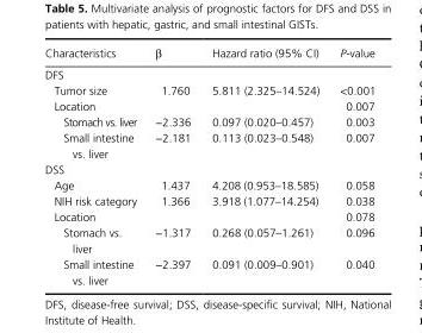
<table><thead><tr><td>Characteristics</td><td>β</td><td>Hazard ratio (95% CI)</td><td>P- value</td></tr></thead><tbody><tr><td colspan="4">DFS</td></tr><tr><td>Tumor size</td><td>1.760</td><td>5.811 (2.325–14.524)</td><td>&lt;0.001</td></tr><tr><td>Location</td><td></td><td></td><td>0.007</td></tr><tr><td>Stomach vs. liver</td><td>−2.336</td><td>0.097 (0.020–0.457)</td><td>0.003</td></tr><tr><td>Small intestine vs. liver</td><td>−2.181</td><td>0.113 (0.023–0.548)</td><td>0.007</td></tr><tr><td colspan="4">DSS</td></tr><tr><td>Age</td><td>1.437</td><td>4.208 (0.953–18.585)</td><td>0.058</td></tr><tr><td>NIH risk category</td><td>1.366</td><td>3.918 (1.077–14.254)</td><td>0.038</td></tr><tr><td>Location</td><td></td><td></td><td>0.078</td></tr><tr><td>Stomach vs. liver</td><td>−1.317</td><td>0.268 (0.057–1.261)</td><td>0.096</td></tr><tr><td>Small intestine vs. liver</td><td>−2.397</td><td>0.091 (0.009–0.901)</td><td>0.040</td></tr></tbody></table>